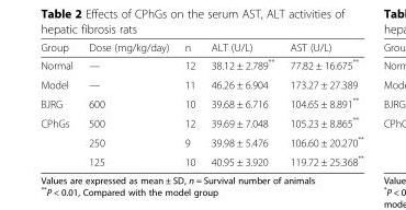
<table><thead><tr><td>Group</td><td>Dose (mg/kg/day)</td><td>n</td><td>ALT (U/L)</td><td>AST (U/L)</td></tr></thead><tbody><tr><td>Normal</td><td>—</td><td>12</td><td>38.12 ± 2.789**</td><td>77.82 ± 16.675**</td></tr><tr><td>Model</td><td>—</td><td>11</td><td>46.26 ± 6.904</td><td>173.27 ± 27.389</td></tr><tr><td>BJRG</td><td>600</td><td>10</td><td>39.68 ± 6.716</td><td>104.65 ± 8.891**</td></tr><tr><td rowspan="3">CPhGs</td><td>500</td><td>12</td><td>39.69 ± 7.048</td><td>105.23 ± 8.865**</td></tr><tr><td>250</td><td>9</td><td>39.98 ± 5.476</td><td>106.60 ± 20.270**</td></tr><tr><td>125</td><td>10</td><td>40.95 ± 3.920</td><td>119.72 ± 25.368**</td></tr></tbody></table>